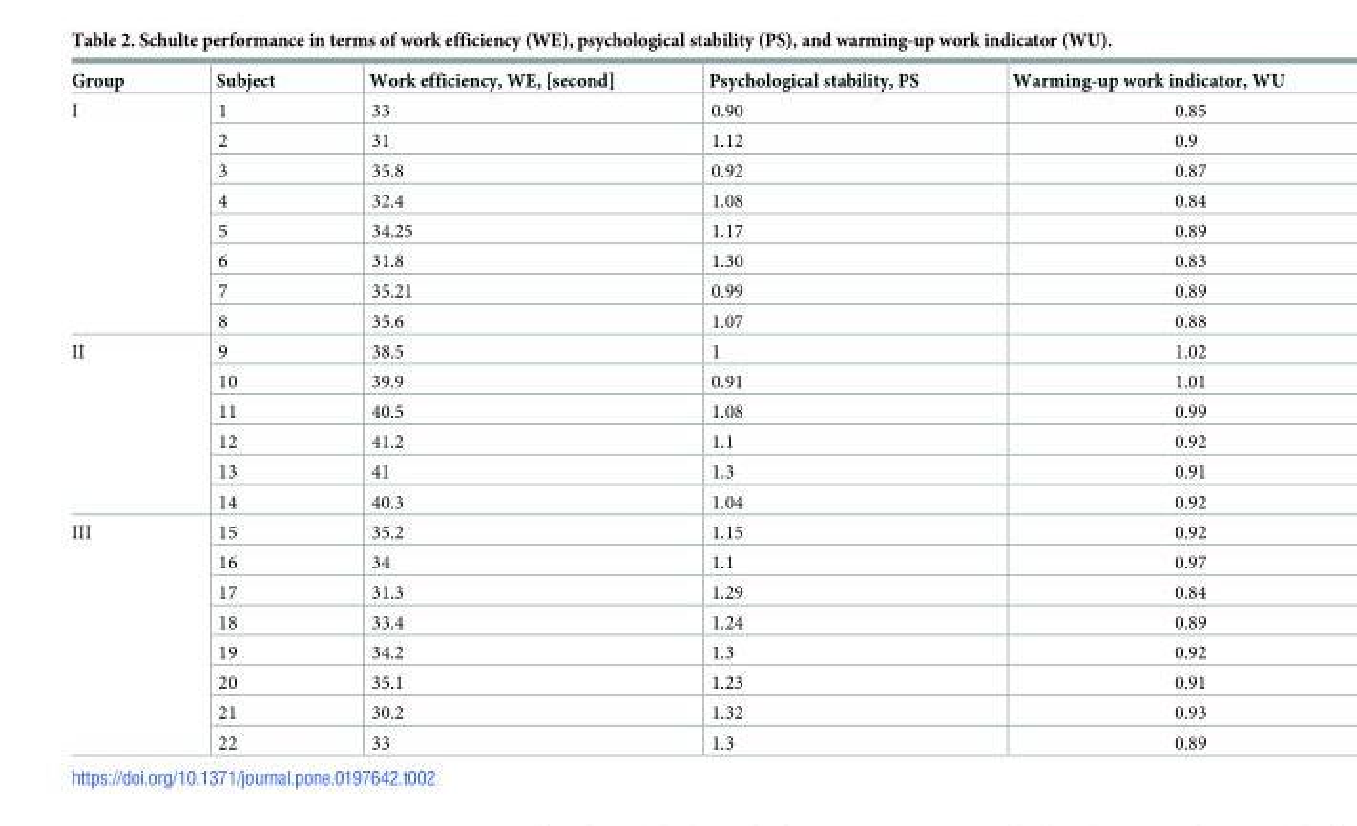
<table><thead><tr><td>Group</td><td>Subject</td><td>Work efficiency, WE, [second]</td><td>Psychological stability, PS</td><td>Warming-up work indicator, WU</td></tr></thead><tbody><tr><td rowspan="8">I</td><td>1</td><td>33</td><td>0.90</td><td>0.85</td></tr><tr><td>2</td><td>31</td><td>1.12</td><td>0.9</td></tr><tr><td>3</td><td>35.8</td><td>0.92</td><td>0.87</td></tr><tr><td>4</td><td>32.4</td><td>1.08</td><td>0.84</td></tr><tr><td>5</td><td>34.25</td><td>1.17</td><td>0.89</td></tr><tr><td>6</td><td>31.8</td><td>1.30</td><td>0.83</td></tr><tr><td>7</td><td>35.21</td><td>0.99</td><td>0.89</td></tr><tr><td>8</td><td>35.6</td><td>1.07</td><td>0.88</td></tr><tr><td rowspan="6">II</td><td>9</td><td>38.5</td><td>1</td><td>1.02</td></tr><tr><td>10</td><td>39.9</td><td>0.91</td><td>1.01</td></tr><tr><td>11</td><td>40.5</td><td>1.08</td><td>0.99</td></tr><tr><td>12</td><td>41.2</td><td>1.1</td><td>0.92</td></tr><tr><td>13</td><td>41</td><td>1.3</td><td>0.91</td></tr><tr><td>14</td><td>40.3</td><td>1.04</td><td>0.92</td></tr><tr><td rowspan="8">III</td><td>15</td><td>35.2</td><td>1.15</td><td>0.92</td></tr><tr><td>16</td><td>34</td><td>1.1</td><td>0.97</td></tr><tr><td>17</td><td>31.3</td><td>1.29</td><td>0.84</td></tr><tr><td>18</td><td>33.4</td><td>1.24</td><td>0.89</td></tr><tr><td>19</td><td>34.2</td><td>1.3</td><td>0.92</td></tr><tr><td>20</td><td>35.1</td><td>1.23</td><td>0.91</td></tr><tr><td>21</td><td>30.2</td><td>1.32</td><td>0.93</td></tr><tr><td>22</td><td>33</td><td>1.3</td><td>0.89</td></tr></tbody></table>